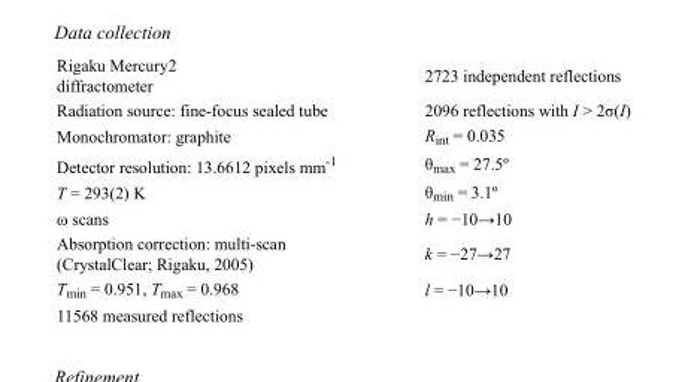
<table><tbody><tr><td>Rigaku Mercury2 diffractometer</td><td>2723 independent reflections</td></tr><tr><td>Radiation source: fine-focus sealed tube</td><td>2096 reflections with I &gt; 2σ(I)</td></tr><tr><td>Monochromator: graphite</td><td>R<sub>int</sub> = 0.035</td></tr><tr><td>Detector resolution: 13.6612 pixels mm<sup>-1</sup></td><td>θ<sub>max</sub> = 27.5º</td></tr><tr><td>T = 293(2) K</td><td>θ<sub>min</sub> = 3.1º</td></tr><tr><td>ω scans</td><td>h = −10→10</td></tr><tr><td>Absorption correction: multi-scan (CrystalClear; Rigaku, 2005)</td><td>k = −27→27</td></tr><tr><td>T<sub>min</sub> = 0.951, T<sub>max</sub> = 0.968</td><td>l = −10→10</td></tr><tr><td>11568 measured reflections</td><td></td></tr></tbody></table>